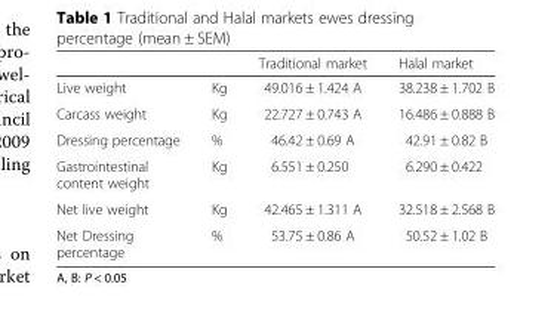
<table><thead><tr><td></td><td></td><td>Traditional market</td><td>Halal market</td></tr></thead><tbody><tr><td>Live weight</td><td>Kg</td><td>49.016 ± 1.424 A</td><td>38.238 ± 1.702 B</td></tr><tr><td>Carcass weight</td><td>Kg</td><td>22.727 ± 0.743 A</td><td>16.486 ± 0.888 B</td></tr><tr><td>Dressing percentage</td><td>%</td><td>46.42 ± 0.69 A</td><td>42.91 ± 0.82 B</td></tr><tr><td>Gastrointestinal content weight</td><td>Kg</td><td>6.551 ± 0.250</td><td>6.290 ± 0.422</td></tr><tr><td>Net live weight</td><td>Kg</td><td>42.465 ± 1.311 A</td><td>32.518 ± 2.568 B</td></tr><tr><td>Net Dressing percentage</td><td>%</td><td>53.75 ± 0.86 A</td><td>50.52 ± 1.02 B</td></tr></tbody></table>